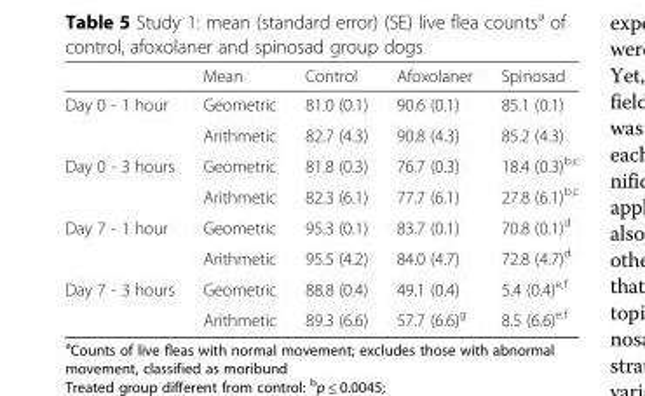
<table><thead><tr><td></td><td>Mean</td><td>Control</td><td>Afoxolaner</td><td>Spinosad</td></tr></thead><tbody><tr><td rowspan="2">Day 0 - 1 hour</td><td>Geometric</td><td>81.0 (0.1)</td><td>90.6 (0.1)</td><td>85.1 (0.1)</td></tr><tr><td>Arithmetic</td><td>82.7 (4.3)</td><td>90.8 (4.3)</td><td>85.2 (4.3)</td></tr><tr><td rowspan="2">Day 0 - 3 hours</td><td>Geometric</td><td>81.8 (0.3)</td><td>76.7 (0.3)</td><td>18.4 (0.3)<sup>b,c</sup></td></tr><tr><td>Arithmetic</td><td>82.3 (6.1)</td><td>77.7 (6.1)</td><td>27.8 (6.1)<sup>b,c</sup></td></tr><tr><td rowspan="2">Day 7 - 1 hour</td><td>Geometric</td><td>95.3 (0.1)</td><td>83.7 (0.1)</td><td>70.8 (0.1)<sup>d</sup></td></tr><tr><td>Arithmetic</td><td>95.5 (4.2)</td><td>84.0 (4.7)</td><td>72.8 (4.7)<sup>d</sup></td></tr><tr><td rowspan="2">Day 7 - 3 hours</td><td>Geometric</td><td>88.8 (0.4)</td><td>49.1 (0.4)</td><td>5.4 (0.4)<sup>e,f</sup></td></tr><tr><td>Arithmetic</td><td>89.3 (6.6)</td><td>57.7 (6.6)<sup>g</sup></td><td>8.5 (6.6)<sup>e,f</sup></td></tr></tbody></table>